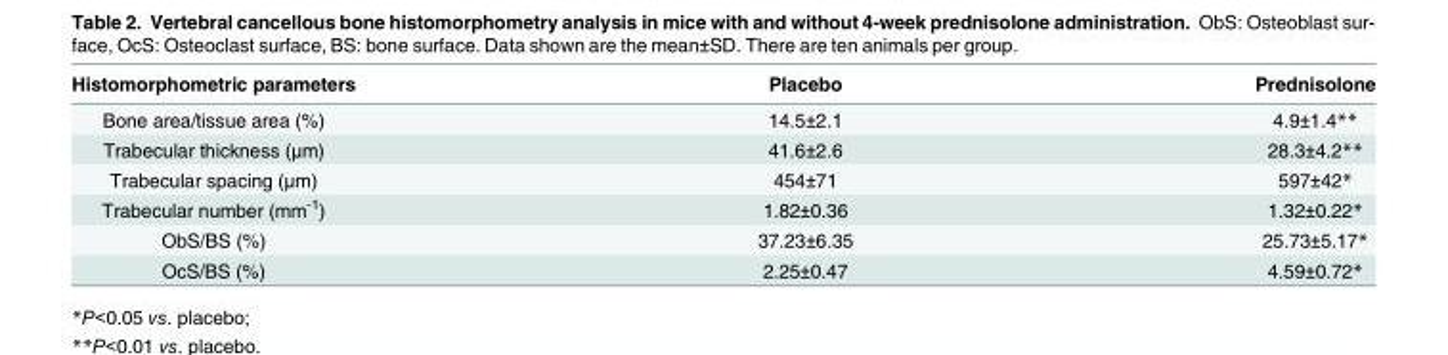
<table><thead><tr><td>Histomorphometric parameters</td><td>Placebo</td><td>Prednisolone</td></tr></thead><tbody><tr><td>Bone area/tissue area (%)</td><td>14.5±2.1</td><td>4.9±1.4**</td></tr><tr><td>Trabecular thickness (μm)</td><td>41.6±2.6</td><td>28.3±4.2**</td></tr><tr><td>Trabecular spacing (μm)</td><td>454±71</td><td>597±42*</td></tr><tr><td>Trabecular number (mm<sup>-1</sup>)</td><td>1.82±0.36</td><td>1.32±0.22*</td></tr><tr><td>ObS/BS (%)</td><td>37.23±6.35</td><td>25.73±5.17*</td></tr><tr><td>OcS/BS (%)</td><td>2.25±0.47</td><td>4.59±0.72*</td></tr></tbody></table>